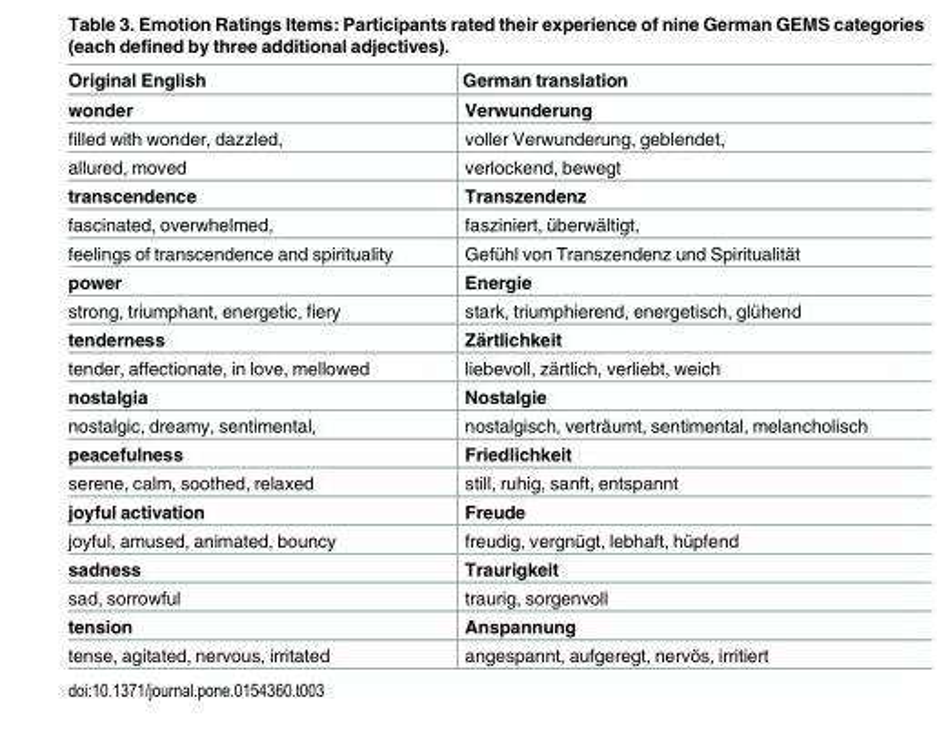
<table><thead><tr><td>Original English</td><td>German translation</td></tr></thead><tbody><tr><td>wonder</td><td>Verwunderung</td></tr><tr><td>filled with wonder, dazzled,</td><td>voller Verwunderung, geblendet,</td></tr><tr><td>allured, moved</td><td>verlockend, bewegt</td></tr><tr><td>transcendence</td><td>Transzendenz</td></tr><tr><td>fascinated, overwhelmed,</td><td>fasziniert, überwältigt,</td></tr><tr><td>feelings of transcendence and spirituality</td><td>Gefühl von Transzendenz und Spiritualität</td></tr><tr><td>power</td><td>Energie</td></tr><tr><td>strong, triumphant, energetic, fiery</td><td>stark, triumphierend, energetisch, glühend</td></tr><tr><td>tenderness</td><td>Zärtlichkeit</td></tr><tr><td>tender, affectionate, in love, mellowed</td><td>liebevoll, zärtlich, verliebt, weich</td></tr><tr><td>nostalgia</td><td>Nostalgie</td></tr><tr><td>nostalgic, dreamy, sentimental,</td><td>nostalgisch, verträumt, sentimental, melancholisch</td></tr><tr><td>peacefulness</td><td>Friedlichkeit</td></tr><tr><td>serene, calm, soothed, relaxed</td><td>still, ruhig, sanft, entspannt</td></tr><tr><td>joyful activation</td><td>Freude</td></tr><tr><td>joyful, amused, animated, bouncy</td><td>freudig, vergnügt, lebhaft, hüpfend</td></tr><tr><td>sadness</td><td>Traurigkeit</td></tr><tr><td>sad, sorrowful</td><td>traurig, sorgenvoll</td></tr><tr><td>tension</td><td>Anspannung</td></tr><tr><td>tense, agitated, nervous, irritated</td><td>angespannt, aufgeregt, nervös, irritiert</td></tr></tbody></table>